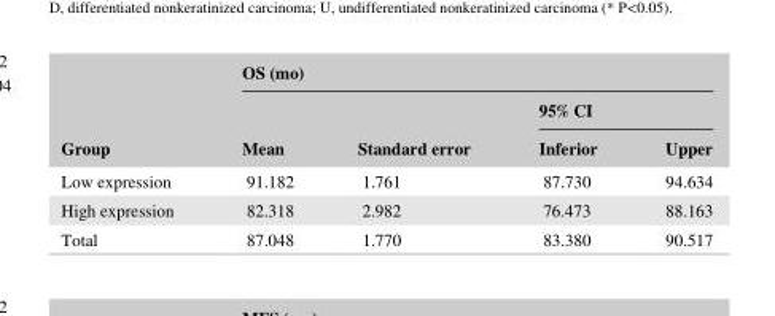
<table><thead><tr><td rowspan="3">Group</td><td colspan="4">OS (mo)</td></tr><tr><td rowspan="2">Mean</td><td rowspan="2">Standard error</td><td colspan="2">95% CI</td></tr><tr><td>Inferior</td><td>Upper</td></tr></thead><tbody><tr><td>Low expression</td><td>91.182</td><td>1.761</td><td>87.730</td><td>94.634</td></tr><tr><td>High expression</td><td>82.318</td><td>2.982</td><td>76.473</td><td>88.163</td></tr><tr><td>Total</td><td>87.048</td><td>1.770</td><td>83.380</td><td>90.517</td></tr></tbody></table>